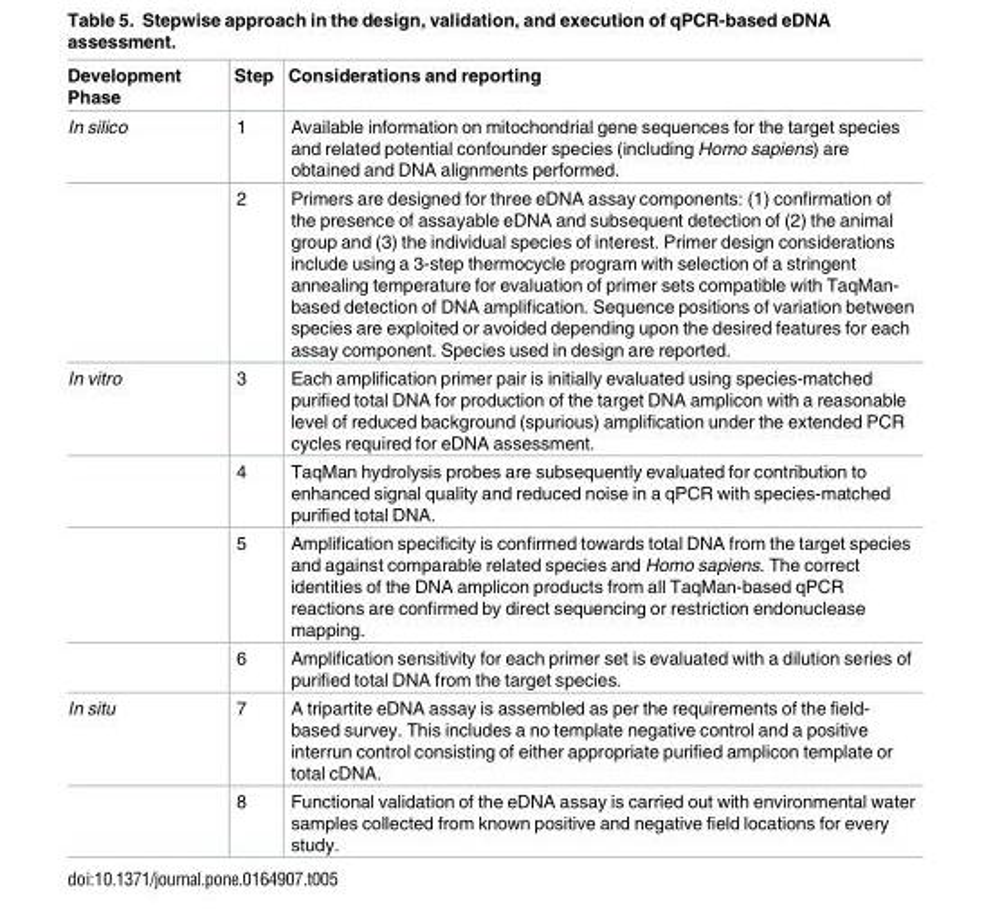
<table><thead><tr><td>Development Phase</td><td>Step</td><td>Considerations and reporting</td></tr></thead><tbody><tr><td rowspan="2">In silico</td><td>1</td><td>Available information on mitochondrial gene sequences for the target species and related potential confounder species (including Homo sapiens) are obtained and DNA alignments performed.</td></tr><tr><td>2</td><td>Primers are designed for three eDNA assay components: (1) confirmation of the presence of assayable eDNA and subsequent detection of (2) the animal group and (3) the individual species of interest. Primer design considerations include using a 3-step thermocycle program with selection of a stringent annealing temperature for evaluation of primer sets compatible with TaqMan- based detection of DNA amplification. Sequence positions of variation between species are exploited or avoided depending upon the desired features for each assay component. Species used in design are reported.</td></tr><tr><td rowspan="4">In vitro</td><td>3</td><td>Each amplification primer pair is initially evaluated using species-matched purified total DNA for production of the target DNA amplicon with a reasonable level of reduced background (spurious) amplification under the extended PCR cycles required for eDNA assessment.</td></tr><tr><td>4</td><td>TaqMan hydrolysis probes are subsequently evaluated for contribution to enhanced signal quality and reduced noise in a qPCR with species-matched purified total DNA.</td></tr><tr><td>5</td><td>Amplification specificity is confirmed towards total DNA from the target species and against comparable related species and Homo sapiens. The correct identities of the DNA amplicon products from all TaqMan-based qPCR reactions are confirmed by direct sequencing or restriction endonuclease mapping.</td></tr><tr><td>6</td><td>Amplification sensitivity for each primer set is evaluated with a dilution series of purified total DNA from the target species.</td></tr><tr><td rowspan="2">In situ</td><td>7</td><td>A tripartite eDNA assay is assembled as per the requirements of the field- based survey. This includes a no template negative control and a positive interrun control consisting of either appropriate purified amplicon template or total cDNA.</td></tr><tr><td>8</td><td>Functional validation of the eDNA assay is carried out with environmental water samples collected from known positive and negative field locations for every study.</td></tr></tbody></table>